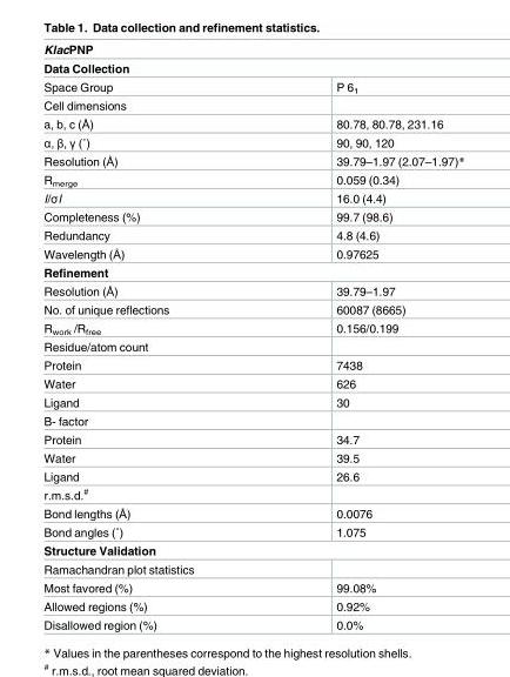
<table><thead><tr><td rowspan="2" colspan="2">KlacPNP Data Collection</td></tr><tr></tr><tr><td>Space Group</td><td>P 6<sub>1</sub></td></tr></thead><tbody><tr><td colspan="2">Cell dimensions</td></tr><tr><td>a, b, c (Å)</td><td>80.78, 80.78, 231.16</td></tr><tr><td>α, β, γ (˚)</td><td>90, 90, 120</td></tr><tr><td>Resolution (Å)</td><td>39.79–1.97 (2.07–1.97)*</td></tr><tr><td>R<sub>merge</sub></td><td>0.059 (0.34)</td></tr><tr><td>I/σI</td><td>16.0 (4.4)</td></tr><tr><td>Completeness (%)</td><td>99.7 (98.6)</td></tr><tr><td>Redundancy</td><td>4.8 (4.6)</td></tr><tr><td>Wavelength (Å)</td><td>0.97625</td></tr><tr><td colspan="2">Refinement</td></tr><tr><td>Resolution (Å)</td><td>39.79–1.97</td></tr><tr><td>No. of unique reflections</td><td>60087 (8665)</td></tr><tr><td>R<sub>work</sub> /R<sub>free</sub></td><td>0.156/0.199</td></tr><tr><td colspan="2">Residue/atom count</td></tr><tr><td>Protein</td><td>7438</td></tr><tr><td>Water</td><td>626</td></tr><tr><td>Ligand</td><td>30</td></tr><tr><td colspan="2">B- factor</td></tr><tr><td>Protein</td><td>34.7</td></tr><tr><td>Water</td><td>39.5</td></tr><tr><td>Ligand</td><td>26.6</td></tr><tr><td colspan="2">r.m.s.d.<sup>#</sup></td></tr><tr><td>Bond lengths (Å)</td><td>0.0076</td></tr><tr><td>Bond angles (˚)</td><td>1.075</td></tr><tr><td colspan="2">Structure Validation</td></tr><tr><td colspan="2">Ramachandran plot statistics</td></tr><tr><td>Most favored (%)</td><td>99.08%</td></tr><tr><td>Allowed regions (%)</td><td>0.92%</td></tr><tr><td>Disallowed region (%)</td><td>0.0%</td></tr></tbody></table>